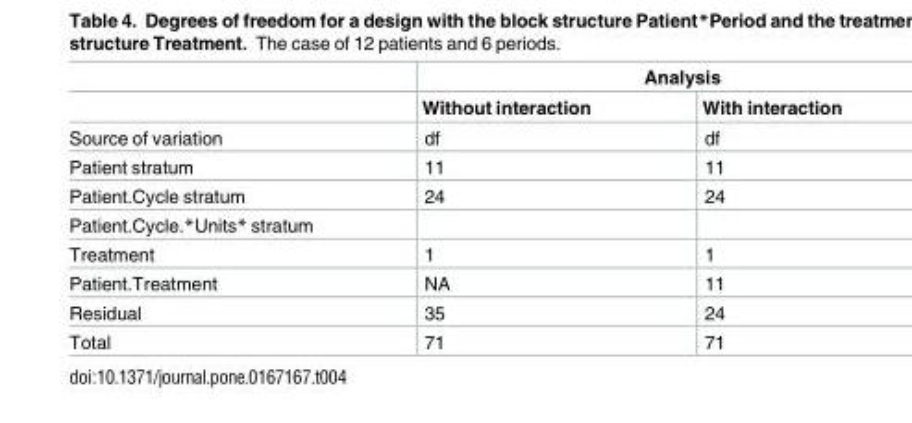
<table><thead><tr><td rowspan="2"></td><td colspan="2">Analysis</td></tr><tr><td>Without interaction</td><td>With interaction</td></tr></thead><tbody><tr><td>Source of variation</td><td>df</td><td>df</td></tr><tr><td>Patient stratum</td><td>11</td><td>11</td></tr><tr><td>Patient.Cycle stratum</td><td>24</td><td>24</td></tr><tr><td colspan="3">Patient.Cycle.*Units* stratum</td></tr><tr><td>Treatment</td><td>1</td><td>1</td></tr><tr><td>Patient.Treatment</td><td>NA</td><td>11</td></tr><tr><td>Residual</td><td>35</td><td>24</td></tr><tr><td>Total</td><td>71</td><td>71</td></tr></tbody></table>